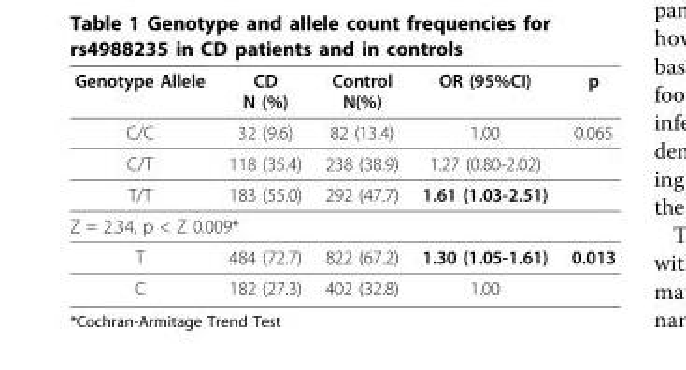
<table><thead><tr><td>Genotype Allele</td><td>CD N (%)</td><td>Control N(%)</td><td>OR (95%CI)</td><td>p</td></tr></thead><tbody><tr><td>C/C</td><td>32 (9.6)</td><td>82 (13.4)</td><td>1.00</td><td>0.065</td></tr><tr><td>C/T</td><td>118 (35.4)</td><td>238 (38.9)</td><td>1.27 (0.80-2.02)</td><td></td></tr><tr><td>T/T</td><td>183 (55.0)</td><td>292 (47.7)</td><td>1.61 (1.03-2.51)</td><td></td></tr><tr><td colspan="5">Z = 2.34, p &lt; Z 0.009*</td></tr><tr><td>T</td><td>484 (72.7)</td><td>822 (67.2)</td><td>1.30 (1.05-1.61)</td><td>0.013</td></tr><tr><td>C</td><td>182 (27.3)</td><td>402 (32.8)</td><td>1.00</td><td></td></tr></tbody></table>